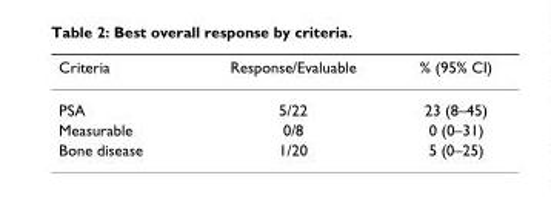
<table><thead><tr><td>Criteria</td><td>Response/Evaluable</td><td>% (95% CI)</td></tr></thead><tbody><tr><td>PSA</td><td>5/22</td><td>23 (8–45)</td></tr><tr><td>Measurable</td><td>0/8</td><td>0 (0–31)</td></tr><tr><td>Bone disease</td><td>1/20</td><td>5 (0–25)</td></tr></tbody></table>